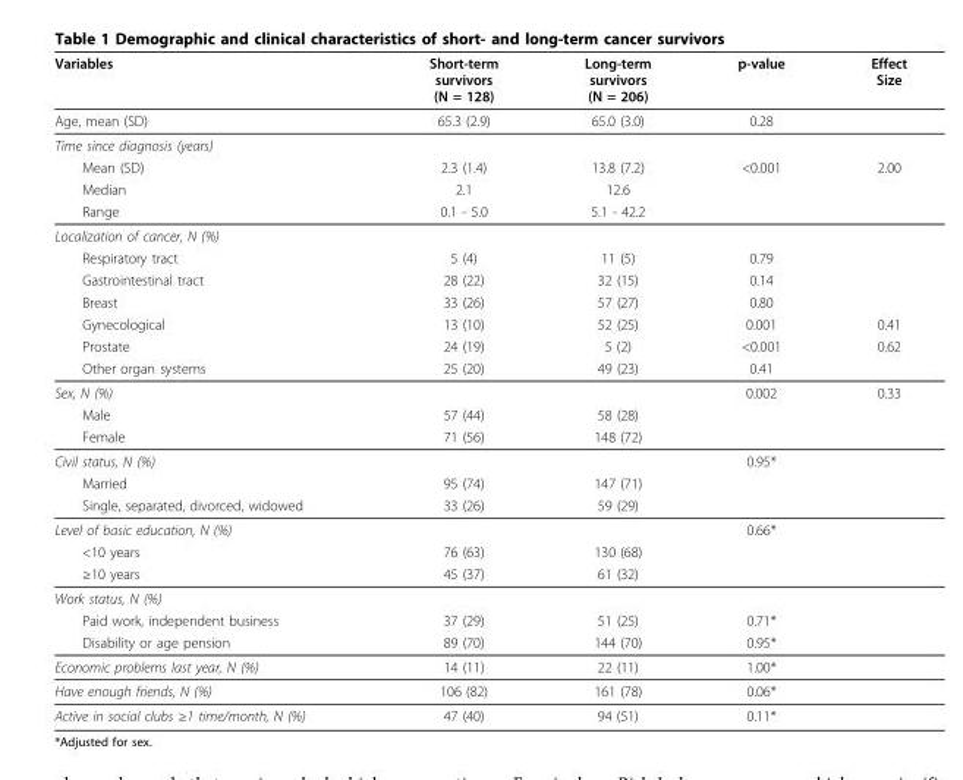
<table><thead><tr><td>Variables</td><td>Short-term survivors (N = 128)</td><td>Long-term survivors (N = 206)</td><td>p-value</td><td>Effect Size</td></tr></thead><tbody><tr><td>Age, mean (SD)</td><td>65.3 (2.9)</td><td>65.0 (3.0)</td><td>0.28</td><td></td></tr><tr><td colspan="5">Time since diagnosis (years)</td></tr><tr><td>Mean (SD)</td><td>2.3 (1.4)</td><td>13.8 (7.2)</td><td>&lt;0.001</td><td>2.00</td></tr><tr><td>Median</td><td>2.1</td><td>12.6</td><td></td><td></td></tr><tr><td>Range</td><td>0.1 - 5.0</td><td>5.1 - 42.2</td><td></td><td></td></tr><tr><td colspan="5">Localization of cancer, N (%)</td></tr><tr><td>Respiratory tract</td><td>5 (4)</td><td>11 (5)</td><td>0.79</td><td></td></tr><tr><td>Gastrointestinal tract</td><td>28 (22)</td><td>32 (15)</td><td>0.14</td><td></td></tr><tr><td>Breast</td><td>33 (26)</td><td>57 (27)</td><td>0.80</td><td></td></tr><tr><td>Gynecological</td><td>13 (10)</td><td>52 (25)</td><td>0.001</td><td>0.41</td></tr><tr><td>Prostate</td><td>24 (19)</td><td>5 (2)</td><td>&lt;0.001</td><td>0.62</td></tr><tr><td>Other organ systems</td><td>25 (20)</td><td>49 (23)</td><td>0.41</td><td></td></tr><tr><td>Sex, N (%)</td><td></td><td></td><td>0.002</td><td>0.33</td></tr><tr><td>Male</td><td>57 (44)</td><td>58 (28)</td><td></td><td></td></tr><tr><td>Female</td><td>71 (56)</td><td>148 (72)</td><td></td><td></td></tr><tr><td>Civil status, N (%)</td><td></td><td></td><td>0.95*</td><td></td></tr><tr><td>Married</td><td>95 (74)</td><td>147 (71)</td><td></td><td></td></tr><tr><td>Single, separated, divorced, widowed</td><td>33 (26)</td><td>59 (29)</td><td></td><td></td></tr><tr><td>Level of basic education, N (%)</td><td></td><td></td><td>0.66*</td><td></td></tr><tr><td>&lt;10 years</td><td>76 (63)</td><td>130 (68)</td><td></td><td></td></tr><tr><td>≥10 years</td><td>45 (37)</td><td>61 (32)</td><td></td><td></td></tr><tr><td colspan="5">Work status, N (%)</td></tr><tr><td>Paid work, independent business</td><td>37 (29)</td><td>51 (25)</td><td>0.71*</td><td></td></tr><tr><td>Disability or age pension</td><td>89 (70)</td><td>144 (70)</td><td>0.95*</td><td></td></tr><tr><td>Economic problems last year, N (%)</td><td>14 (11)</td><td>22 (11)</td><td>1.00*</td><td></td></tr><tr><td>Have enough friends, N (%)</td><td>106 (82)</td><td>161 (78)</td><td>0.06*</td><td></td></tr><tr><td>Active in social clubs ≥1 time/month, N (%)</td><td>47 (40)</td><td>94 (51)</td><td>0.11*</td><td></td></tr></tbody></table>